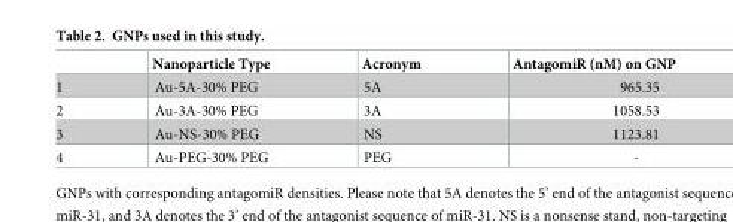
<table><thead><tr><td></td><td>Nanoparticle Type</td><td>Acronym</td><td>AntagomiR (nM) on GNP</td></tr></thead><tbody><tr><td>1</td><td>Au-5A-30% PEG</td><td>5A</td><td>965.35</td></tr><tr><td>2</td><td>Au-3A-30% PEG</td><td>3A</td><td>1058.53</td></tr><tr><td>3</td><td>Au-NS-30% PEG</td><td>NS</td><td>1123.81</td></tr><tr><td>4</td><td>Au-PEG-30% PEG</td><td>PEG</td><td>-</td></tr></tbody></table>